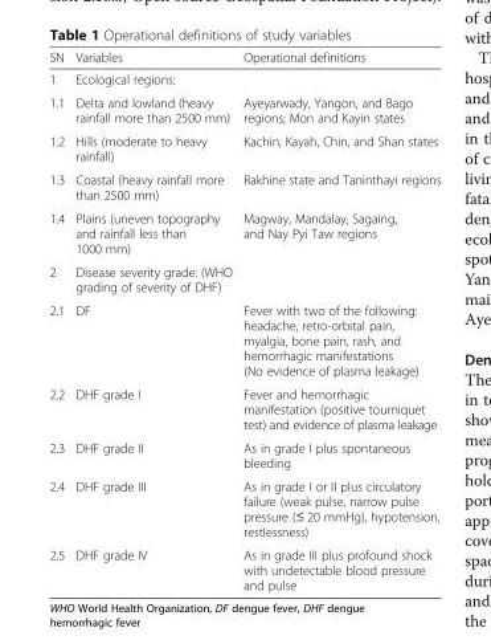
<table><thead><tr><td>SN</td><td>Variables</td><td>Operational definitions</td></tr></thead><tbody><tr><td>1</td><td>Ecological regions:</td><td></td></tr><tr><td>1.1</td><td>Delta and lowland (heavy rainfall more than 2500 mm)</td><td>Ayeyarwady, Yangon, and Bago regions; Mon and Kayin states</td></tr><tr><td>1.2</td><td>Hills (moderate to heavy rainfall)</td><td>Kachin, Kayah, Chin, and Shan states</td></tr><tr><td>1.3</td><td>Coastal (heavy rainfall more than 2500 mm)</td><td>Rakhine state and Taninthayi regions</td></tr><tr><td>1.4</td><td>Plains (uneven topography and rainfall less than 1000 mm)</td><td>Magway, Mandalay, Sagaing, and Nay Pyi Taw regions</td></tr><tr><td>2</td><td>Disease severity grade: (WHO grading of severity of DHF)</td><td></td></tr><tr><td>2.1</td><td>DF</td><td>Fever with two of the following: headache, retro-orbital pain, myalgia, bone pain, rash, and hemorrhagic manifestations (No evidence of plasma leakage)</td></tr><tr><td>2.2</td><td>DHF grade I</td><td>Fever and hemorrhagic manifestation (positive tourniquet test) and evidence of plasma leakage</td></tr><tr><td>2.3</td><td>DHF grade II</td><td>As in grade I plus spontaneous bleeding</td></tr><tr><td>2.4</td><td>DHF grade III</td><td>As in grade I or II plus circulatory failure (weak pulse, narrow pulse pressure (≤ 20 mmHg), hypotension, restlessness)</td></tr><tr><td>2.5</td><td>DHF grade IV</td><td>As in grade III plus profound shock with undetectable blood pressure and pulse</td></tr></tbody></table>